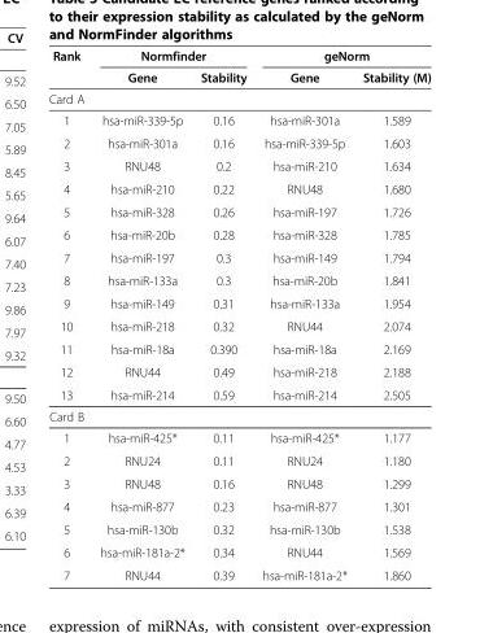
<table><thead><tr><td rowspan="2">Rank</td><td colspan="2">Normfinder</td><td colspan="2">geNorm</td></tr><tr><td>Gene</td><td>Stability</td><td>Gene</td><td>Stability (M)</td></tr></thead><tbody><tr><td colspan="5">Card A</td></tr><tr><td>1</td><td>hsa-miR-339-5p</td><td>0.16</td><td>hsa-miR-301a</td><td>1.589</td></tr><tr><td>2</td><td>hsa-miR-301a</td><td>0.16</td><td>hsa-miR-339-5p</td><td>1.603</td></tr><tr><td>3</td><td>RNU48</td><td>0.2</td><td>hsa-miR-210</td><td>1.634</td></tr><tr><td>4</td><td>hsa-miR-210</td><td>0.22</td><td>RNU48</td><td>1.680</td></tr><tr><td>5</td><td>hsa-miR-328</td><td>0.26</td><td>hsa-miR-197</td><td>1.726</td></tr><tr><td>6</td><td>hsa-miR-20b</td><td>0.28</td><td>hsa-miR-328</td><td>1.785</td></tr><tr><td>7</td><td>hsa-miR-197</td><td>0.3</td><td>hsa-miR-149</td><td>1.794</td></tr><tr><td>8</td><td>hsa-miR-133a</td><td>0.3</td><td>hsa-miR-20b</td><td>1.841</td></tr><tr><td>9</td><td>hsa-miR-149</td><td>0.31</td><td>hsa-miR-133a</td><td>1.954</td></tr><tr><td>10</td><td>hsa-miR-218</td><td>0.32</td><td>RNU44</td><td>2.074</td></tr><tr><td>11</td><td>hsa-miR-18a</td><td>0.390</td><td>hsa-miR-18a</td><td>2.169</td></tr><tr><td>12</td><td>RNU44</td><td>0.49</td><td>hsa-miR-218</td><td>2.188</td></tr><tr><td>13</td><td>hsa-miR-214</td><td>0.59</td><td>hsa-miR-214</td><td>2.505</td></tr><tr><td colspan="5">Card B</td></tr><tr><td>1</td><td>hsa-miR-425*</td><td>0.11</td><td>hsa-miR-425*</td><td>1.177</td></tr><tr><td>2</td><td>RNU24</td><td>0.11</td><td>RNU24</td><td>1.180</td></tr><tr><td>3</td><td>RNU48</td><td>0.16</td><td>RNU48</td><td>1.299</td></tr><tr><td>4</td><td>hsa-miR-877</td><td>0.23</td><td>hsa-miR-877</td><td>1.301</td></tr><tr><td>5</td><td>hsa-miR-130b</td><td>0.32</td><td>hsa-miR-130b</td><td>1.538</td></tr><tr><td>6</td><td>hsa-miR-181a-2*</td><td>0.34</td><td>RNU44</td><td>1.569</td></tr><tr><td>7</td><td>RNU44</td><td>0.39</td><td>hsa-miR-181a-2*</td><td>1.860</td></tr></tbody></table>